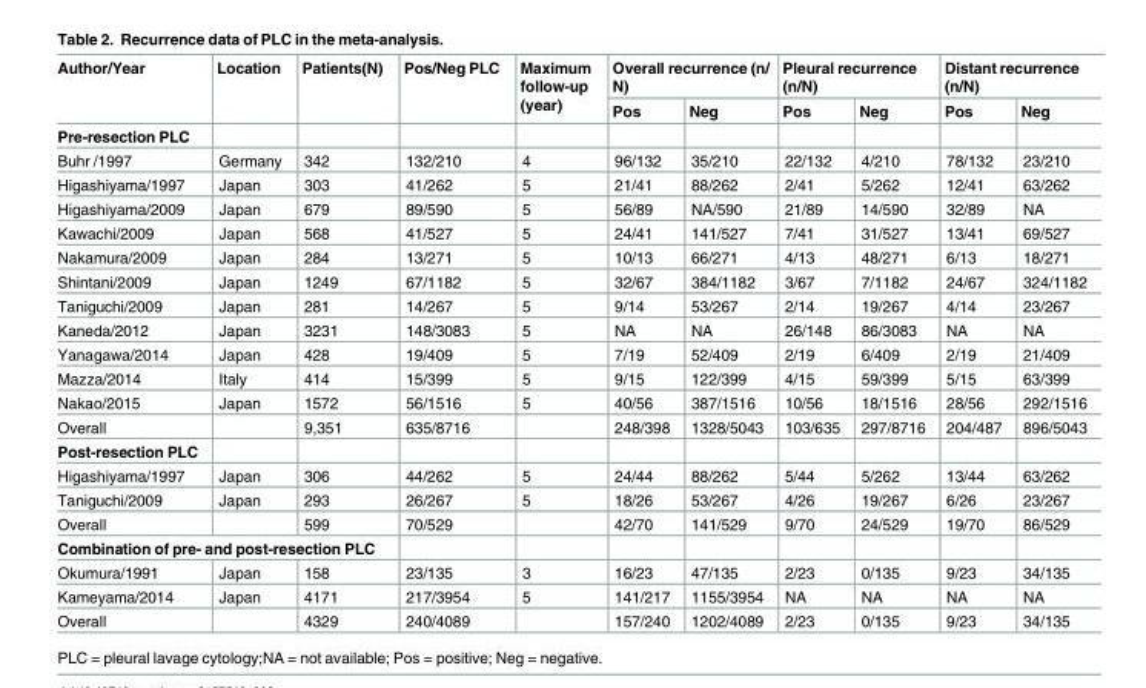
<table><thead><tr><td rowspan="2">Author/Year</td><td rowspan="2">Location</td><td rowspan="2">Patients(N)</td><td rowspan="2">Pos/Neg PLC</td><td rowspan="2">Maximum follow-up (year)</td><td colspan="2">Overall recurrence (n/ N)</td><td colspan="2">Pleural recurrence (n/N)</td><td colspan="2">Distant recurrence (n/N)</td></tr><tr><td>Pos</td><td>Neg</td><td>Pos</td><td>Neg</td><td>Pos</td><td>Neg</td></tr></thead><tbody><tr><td colspan="11">Pre-resection PLC</td></tr><tr><td>Buhr /1997</td><td>Germany</td><td>342</td><td>132/210</td><td>4</td><td>96/132</td><td>35/210</td><td>22/132</td><td>4/210</td><td>78/132</td><td>23/210</td></tr><tr><td>Higashiyama/1997</td><td>Japan</td><td>303</td><td>41/262</td><td>5</td><td>21/41</td><td>88/262</td><td>2/41</td><td>5/262</td><td>12/41</td><td>63/262</td></tr><tr><td>Higashiyama/2009</td><td>Japan</td><td>679</td><td>89/590</td><td>5</td><td>56/89</td><td>NA/590</td><td>21/89</td><td>14/590</td><td>32/89</td><td>NA</td></tr><tr><td>Kawachi/2009</td><td>Japan</td><td>568</td><td>41/527</td><td>5</td><td>24/41</td><td>141/527</td><td>7/41</td><td>31/527</td><td>13/41</td><td>69/527</td></tr><tr><td>Nakamura/2009</td><td>Japan</td><td>284</td><td>13/271</td><td>5</td><td>10/13</td><td>66/271</td><td>4/13</td><td>48/271</td><td>6/13</td><td>18/271</td></tr><tr><td>Shintani/2009</td><td>Japan</td><td>1249</td><td>67/1182</td><td>5</td><td>32/67</td><td>384/1182</td><td>3/67</td><td>7/1182</td><td>24/67</td><td>324/1182</td></tr><tr><td>Taniguchi/2009</td><td>Japan</td><td>281</td><td>14/267</td><td>5</td><td>9/14</td><td>53/267</td><td>2/14</td><td>19/267</td><td>4/14</td><td>23/267</td></tr><tr><td>Kaneda/2012</td><td>Japan</td><td>3231</td><td>148/3083</td><td>5</td><td>NA</td><td>NA</td><td>26/148</td><td>86/3083</td><td>NA</td><td>NA</td></tr><tr><td>Yanagawa/2014</td><td>Japan</td><td>428</td><td>19/409</td><td>5</td><td>7/19</td><td>52/409</td><td>2/19</td><td>6/409</td><td>2/19</td><td>21/409</td></tr><tr><td>Mazza/2014</td><td>Italy</td><td>414</td><td>15/399</td><td>5</td><td>9/15</td><td>122/399</td><td>4/15</td><td>59/399</td><td>5/15</td><td>63/399</td></tr><tr><td>Nakao/2015</td><td>Japan</td><td>1572</td><td>56/1516</td><td>5</td><td>40/56</td><td>387/1516</td><td>10/56</td><td>18/1516</td><td>28/56</td><td>292/1516</td></tr><tr><td>Overall</td><td></td><td>9,351</td><td>635/8716</td><td></td><td>248/398</td><td>1328/5043</td><td>103/635</td><td>297/8716</td><td>204/487</td><td>896/5043</td></tr><tr><td colspan="11">Post-resection PLC</td></tr><tr><td>Higashiyama/1997</td><td>Japan</td><td>306</td><td>44/262</td><td>5</td><td>24/44</td><td>88/262</td><td>5/44</td><td>5/262</td><td>13/44</td><td>63/262</td></tr><tr><td>Taniguchi/2009</td><td>Japan</td><td>293</td><td>26/267</td><td>5</td><td>18/26</td><td>53/267</td><td>4/26</td><td>19/267</td><td>6/26</td><td>23/267</td></tr><tr><td>Overall</td><td></td><td>599</td><td>70/529</td><td></td><td>42/70</td><td>141/529</td><td>9/70</td><td>24/529</td><td>19/70</td><td>86/529</td></tr><tr><td colspan="11">Combination of pre- and post-resection PLC</td></tr><tr><td>Okumura/1991</td><td>Japan</td><td>158</td><td>23/135</td><td>3</td><td>16/23</td><td>47/135</td><td>2/23</td><td>0/135</td><td>9/23</td><td>34/135</td></tr><tr><td>Kameyama/2014</td><td>Japan</td><td>4171</td><td>217/3954</td><td>5</td><td>141/217</td><td>1155/3954</td><td>NA</td><td>NA</td><td>NA</td><td>NA</td></tr><tr><td>Overall</td><td></td><td>4329</td><td>240/4089</td><td></td><td>157/240</td><td>1202/4089</td><td>2/23</td><td>0/135</td><td>9/23</td><td>34/135</td></tr></tbody></table>